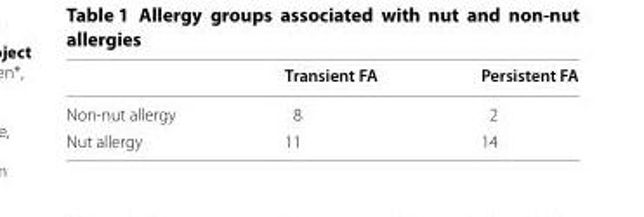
<table><thead><tr><td></td><td>Transient FA</td><td>Persistent FA</td></tr></thead><tbody><tr><td>Non-nut allergy</td><td>8</td><td>2</td></tr><tr><td>Nut allergy</td><td>11</td><td>14</td></tr></tbody></table>